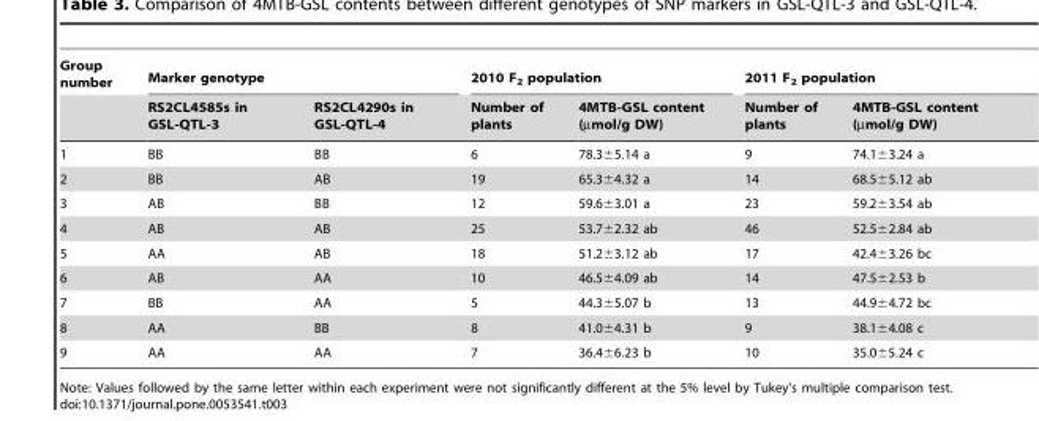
<table><thead><tr><td rowspan="2">Group number</td><td colspan="2">Marker genotype</td><td colspan="2">2010 F<sub>2</sub> population</td><td colspan="2">2011 F<sub>2</sub> population</td></tr><tr><td>RS2CL4585s in GSL-QTL-3</td><td>RS2CL4290s in GSL-QTL-4</td><td>Number of plants</td><td>4MTB-GSL content (µmol/g DW)</td><td>Number of plants</td><td>4MTB-GSL content (µmol/g DW)</td></tr></thead><tbody><tr><td>1</td><td>BB</td><td>BB</td><td>6</td><td>78.3±5.14 a</td><td>9</td><td>74.1±3.24 a</td></tr><tr><td>2</td><td>BB</td><td>AB</td><td>19</td><td>65.3±4.32 a</td><td>14</td><td>68.5±5.12 ab</td></tr><tr><td>3</td><td>AB</td><td>BB</td><td>12</td><td>59.6±3.01 a</td><td>23</td><td>59.2±3.54 ab</td></tr><tr><td>4</td><td>AB</td><td>AB</td><td>25</td><td>53.7±2.32 ab</td><td>46</td><td>52.5±2.84 ab</td></tr><tr><td>5</td><td>AA</td><td>AB</td><td>18</td><td>51.2±3.12 ab</td><td>17</td><td>42.4±3.26 bc</td></tr><tr><td>6</td><td>AB</td><td>AA</td><td>10</td><td>46.5±4.09 ab</td><td>14</td><td>47.5±2.53 b</td></tr><tr><td>7</td><td>BB</td><td>AA</td><td>5</td><td>44.3±5.07 b</td><td>13</td><td>44.9±4.72 bc</td></tr><tr><td>8</td><td>AA</td><td>BB</td><td>8</td><td>41.0±4.31 b</td><td>9</td><td>38.1±4.08 c</td></tr><tr><td>9</td><td>AA</td><td>AA</td><td>7</td><td>36.4±6.23 b</td><td>10</td><td>35.0±5.24 c</td></tr></tbody></table>